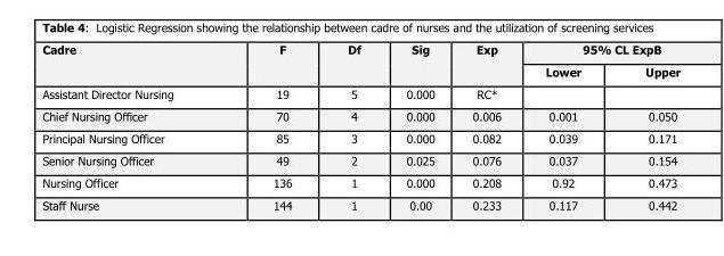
<table><thead><tr><td rowspan="2">Cadre</td><td rowspan="2">F</td><td rowspan="2">Df</td><td rowspan="2">Sig</td><td rowspan="2">Exp</td><td colspan="2">95% CL ExpB</td></tr><tr><td>Lower</td><td>Upper</td></tr></thead><tbody><tr><td>Assistant Director Nursing</td><td>19</td><td>5</td><td>0.000</td><td>RC*</td><td></td><td></td></tr><tr><td>Chief Nursing Officer</td><td>70</td><td>4</td><td>0.000</td><td>0.006</td><td>0.001</td><td>0.050</td></tr><tr><td>Principal Nursing Officer</td><td>85</td><td>3</td><td>0.000</td><td>0.082</td><td>0.039</td><td>0.171</td></tr><tr><td>Senior Nursing Officer</td><td>49</td><td>2</td><td>0.025</td><td>0.076</td><td>0.037</td><td>0.154</td></tr><tr><td>Nursing Officer</td><td>136</td><td>1</td><td>0.000</td><td>0.208</td><td>0.92</td><td>0.473</td></tr><tr><td>Staff Nurse</td><td>144</td><td>1</td><td>0.00</td><td>0.233</td><td>0.117</td><td>0.442</td></tr></tbody></table>